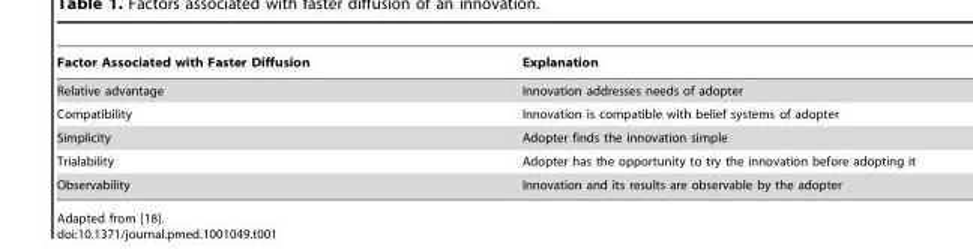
<table><thead><tr><td>Factor Associated with Faster Diffusion</td><td>Explanation</td></tr></thead><tbody><tr><td>Relative advantage</td><td>Innovation addresses needs of adopter</td></tr><tr><td>Compatibility</td><td>Innovation is compatible with belief systems of adopter</td></tr><tr><td>Simplicity</td><td>Adopter finds the innovation simple</td></tr><tr><td>Trialability</td><td>Adopter has the opportunity to try the innovation before adopting it</td></tr><tr><td>Observability</td><td>Innovation and its results are observable by the adopter</td></tr></tbody></table>